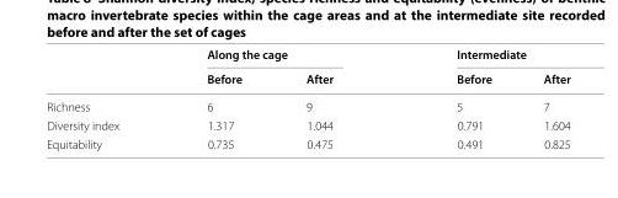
<table><thead><tr><td rowspan="2"></td><td colspan="2">Along the cage</td><td colspan="2">Intermediate</td></tr><tr><td>Before</td><td>After</td><td>Before</td><td>After</td></tr></thead><tbody><tr><td>Richness</td><td>6</td><td>9</td><td>5</td><td>7</td></tr><tr><td>Diversity index</td><td>1.317</td><td>1.044</td><td>0.791</td><td>1.604</td></tr><tr><td>Equitability</td><td>0.735</td><td>0.475</td><td>0.491</td><td>0.825</td></tr></tbody></table>